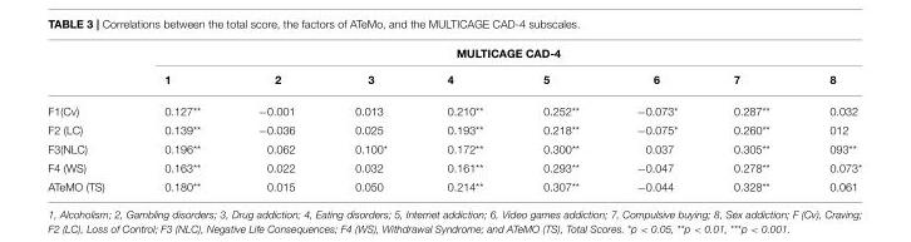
<table><thead><tr><td rowspan="2"></td><td colspan="8">MULTICAGE CAD-4</td></tr><tr><td>1</td><td>2</td><td>3</td><td>4</td><td>5</td><td>6</td><td>7</td><td>8</td></tr></thead><tbody><tr><td>F1(Cv)</td><td>0.127**</td><td>−0.001</td><td>0.013</td><td>0.210**</td><td>0.252**</td><td>−0.073*</td><td>0.287**</td><td>0.032</td></tr><tr><td>F2 (LC)</td><td>0.139**</td><td>−0.036</td><td>0.025</td><td>0.193**</td><td>0.218**</td><td>−0.075*</td><td>0.260**</td><td>012</td></tr><tr><td>F3(NLC)</td><td>0.196**</td><td>0.062</td><td>0.100*</td><td>0.172**</td><td>0.300**</td><td>0.037</td><td>0.305**</td><td>093**</td></tr><tr><td>F4 (WS)</td><td>0.163**</td><td>0.022</td><td>0.032</td><td>0.161**</td><td>0.293**</td><td>−0.047</td><td>0.278**</td><td>0.073*</td></tr><tr><td>ATeMO (TS)</td><td>0.180**</td><td>0.015</td><td>0.050</td><td>0.214**</td><td>0.307**</td><td>−0.044</td><td>0.328**</td><td>0.061</td></tr></tbody></table>